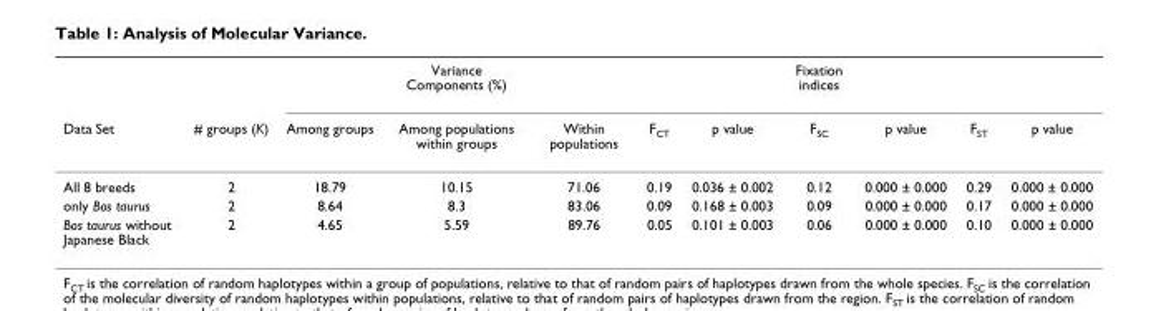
<table><thead><tr><td rowspan="2">Data Set</td><td rowspan="2"># groups (K)</td><td rowspan="2">Among groups</td><td rowspan="2">Variance Components (%) Among populations within groups</td><td rowspan="2">Within populations</td><td rowspan="2">F<sub>CT</sub></td><td rowspan="2">p value</td><td rowspan="2">Fixation indices F<sub>SC</sub></td><td rowspan="2">p value</td><td rowspan="2">F<sub>ST</sub></td><td rowspan="2">p value</td></tr><tr></tr></thead><tbody><tr><td>All 8 breeds</td><td>2</td><td>18.79</td><td>10.15</td><td>71.06</td><td>0.19</td><td>0.036 ± 0.002</td><td>0.12</td><td>0.000 ± 0.000</td><td>0.29</td><td>0.000 ± 0.000</td></tr><tr><td>only Bos taurus</td><td>2</td><td>8.64</td><td>8.3</td><td>83.06</td><td>0.09</td><td>0.168 ± 0.003</td><td>0.09</td><td>0.000 ± 0.000</td><td>0.17</td><td>0.000 ± 0.000</td></tr><tr><td>Bos taurus without Japanese Black</td><td>2</td><td>4.65</td><td>5.59</td><td>89.76</td><td>0.05</td><td>0.101 ± 0.003</td><td>0.06</td><td>0.000 ± 0.000</td><td>0.10</td><td>0.000 ± 0.000</td></tr></tbody></table>